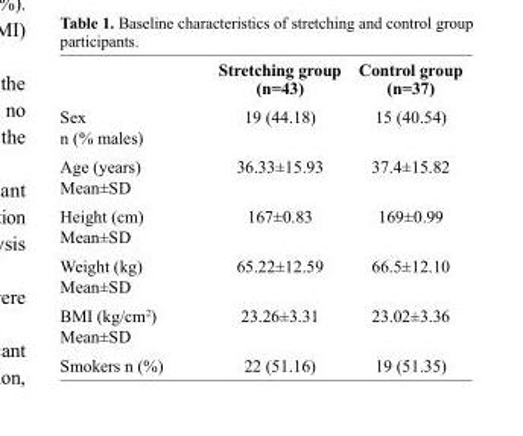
<table><thead><tr><td></td><td>Stretching group (n=43)</td><td>Control group (n=37)</td></tr></thead><tbody><tr><td>Sex n (% males)</td><td>19 (44.18)</td><td>15 (40.54)</td></tr><tr><td>Age (years) Mean±SD</td><td>36.33±15.93</td><td>37.4±15.82</td></tr><tr><td>Height (cm) Mean±SD</td><td>167±0.83</td><td>169±0.99</td></tr><tr><td>Weight (kg) Mean±SD</td><td>65.22±12.59</td><td>66.5±12.10</td></tr><tr><td>BMI (kg/cm<sup>2</sup>) Mean±SD</td><td>23.26±3.31</td><td>23.02±3.36</td></tr><tr><td>Smokers n (%)</td><td>22 (51.16)</td><td>19 (51.35)</td></tr></tbody></table>